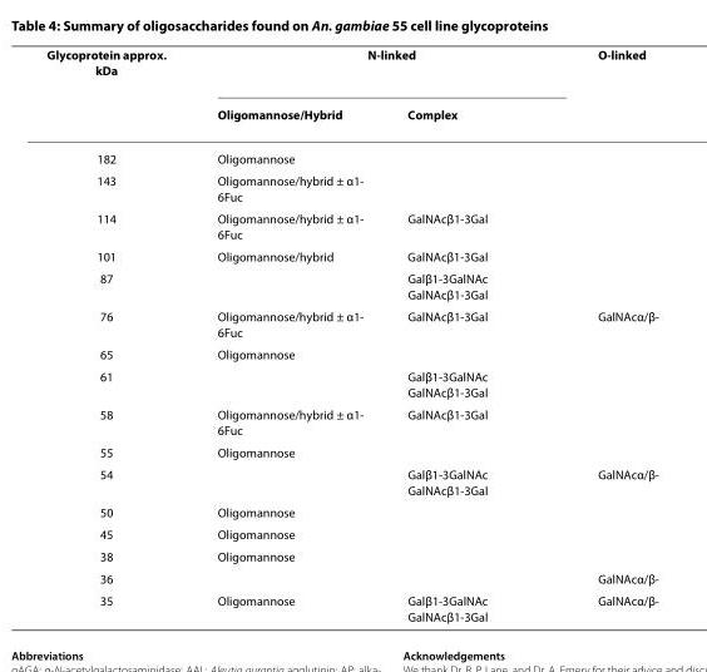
<table><thead><tr><td rowspan="2">Glycoprotein approx. kDa</td><td colspan="2">N-linked</td><td rowspan="2">O-linked</td></tr><tr><td>Oligomannose/Hybrid</td><td>Complex</td></tr></thead><tbody><tr><td>182</td><td>Oligomannose</td><td></td><td></td></tr><tr><td>143</td><td>Oligomannose/hybrid ± α1- 6Fuc</td><td></td><td></td></tr><tr><td>114</td><td>Oligomannose/hybrid ± α1- 6Fuc</td><td>GalNAcβ1-3Gal</td><td></td></tr><tr><td>101</td><td>Oligomannose/hybrid</td><td>GalNAcβ1-3Gal</td><td></td></tr><tr><td>87</td><td></td><td>Galβ1-3GalNAc GalNAcβ1-3Gal</td><td></td></tr><tr><td>76</td><td>Oligomannose/hybrid ± α1- 6Fuc</td><td>GalNAcβ1-3Gal</td><td>GalNAcα/β-</td></tr><tr><td>65</td><td>Oligomannose</td><td></td><td></td></tr><tr><td>61</td><td></td><td>Galβ1-3GalNAc GalNAcβ1-3Gal</td><td></td></tr><tr><td>58</td><td>Oligomannose/hybrid ± α1- 6Fuc</td><td>GalNAcβ1-3Gal</td><td></td></tr><tr><td>55</td><td>Oligomannose</td><td></td><td></td></tr><tr><td>54</td><td></td><td>Galβ1-3GalNAc GalNAcβ1-3Gal</td><td>GalNAcα/β-</td></tr><tr><td>50</td><td>Oligomannose</td><td></td><td></td></tr><tr><td>45</td><td>Oligomannose</td><td></td><td></td></tr><tr><td>38</td><td>Oligomannose</td><td></td><td></td></tr><tr><td>36</td><td></td><td></td><td>GalNAcα/β-</td></tr><tr><td>35</td><td>Oligomannose</td><td>Galβ1-3GalNAc GalNAcβ1-3Gal</td><td>GalNAcα/β-</td></tr></tbody></table>